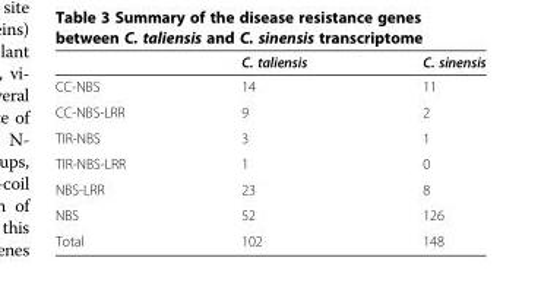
<table><thead><tr><td></td><td>C. taliensis</td><td>C. sinensis</td></tr></thead><tbody><tr><td>CC-NBS</td><td>14</td><td>11</td></tr><tr><td>CC-NBS-LRR</td><td>9</td><td>2</td></tr><tr><td>TIR-NBS</td><td>3</td><td>1</td></tr><tr><td>TIR-NBS-LRR</td><td>1</td><td>0</td></tr><tr><td>NBS-LRR</td><td>23</td><td>8</td></tr><tr><td>NBS</td><td>52</td><td>126</td></tr><tr><td>Total</td><td>102</td><td>148</td></tr></tbody></table>